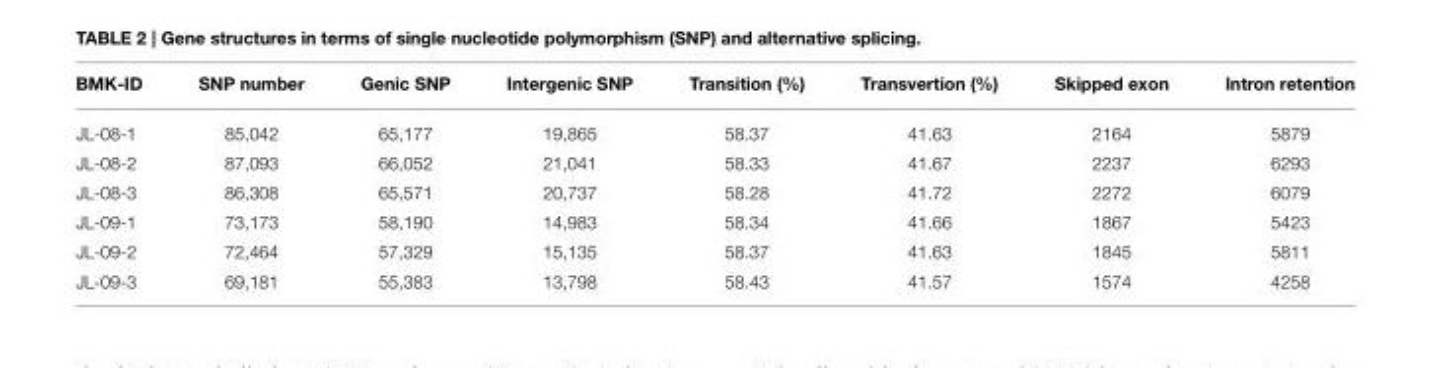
<table><thead><tr><td>BMK-ID</td><td>SNP number</td><td>Genic SNP</td><td>Intergenic SNP</td><td>Transition (%)</td><td>Transvertion (%)</td><td>Skipped exon</td><td>Intron retention</td></tr></thead><tbody><tr><td>JL-08-1</td><td>85,042</td><td>65,177</td><td>19,865</td><td>58.37</td><td>41.63</td><td>2164</td><td>5879</td></tr><tr><td>JL-08-2</td><td>87,093</td><td>66,052</td><td>21,041</td><td>58.33</td><td>41.67</td><td>2237</td><td>6293</td></tr><tr><td>JL-08-3</td><td>86,308</td><td>65,571</td><td>20,737</td><td>58.28</td><td>41.72</td><td>2272</td><td>6079</td></tr><tr><td>JL-09-1</td><td>73,173</td><td>58,190</td><td>14,983</td><td>58.34</td><td>41.66</td><td>1867</td><td>5423</td></tr><tr><td>JL-09-2</td><td>72,464</td><td>57,329</td><td>15,135</td><td>58.37</td><td>41.63</td><td>1845</td><td>5811</td></tr><tr><td>JL-09-3</td><td>69,181</td><td>55,383</td><td>13,798</td><td>58.43</td><td>41.57</td><td>1574</td><td>4258</td></tr></tbody></table>